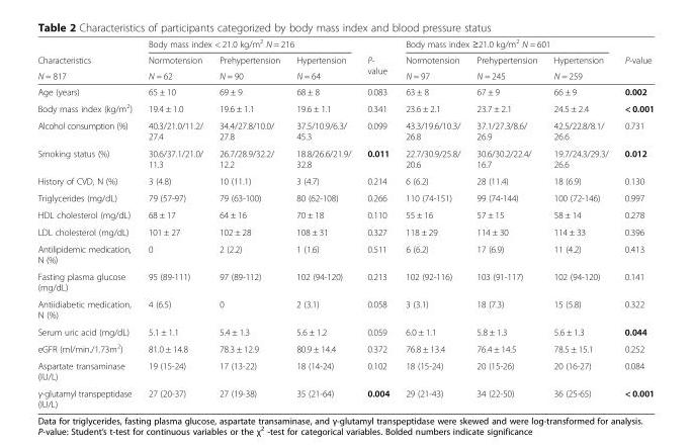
<table><thead><tr><td rowspan="3">Characteristics N = 817</td><td colspan="3">Body mass index &lt; 21.0 kg/m<sup>2</sup> N = 216</td><td rowspan="3">P- value</td><td colspan="3">Body mass index ≥21.0 kg/m<sup>2</sup> N = 601</td><td rowspan="3">P-value</td></tr><tr><td rowspan="2">Normotension N = 62</td><td rowspan="2">Prehypertension N = 90</td><td rowspan="2">Hypertension N = 64</td><td rowspan="2">Normotension N = 97</td><td rowspan="2">Prehypertension N = 245</td><td rowspan="2">Hypertension N = 259</td></tr><tr></tr></thead><tbody><tr><td>Age (years)</td><td>65 ± 10</td><td>69 ± 9</td><td>68 ± 8</td><td>0.083</td><td>63 ± 8</td><td>67 ± 9</td><td>66 ± 9</td><td>0.002</td></tr><tr><td>Body mass index (kg/m<sup>2</sup>)</td><td>19.4 ± 1.0</td><td>19.6 ± 1.1</td><td>19.6 ± 1.1</td><td>0.341</td><td>23.6 ± 2.1</td><td>23.7 ± 2.1</td><td>24.5 ± 2.4</td><td>&lt; 0.001</td></tr><tr><td>Alcohol consumption (%)</td><td>40.3/21.0/11.2/ 27.4</td><td>34.4/27.8/10.0/ 27.8</td><td>37.5/10.9/6.3/ 45.3</td><td>0.099</td><td>43.3/19.6/10.3/ 26.8</td><td>37.1/27.3/8.6/ 26.9</td><td>42.5/22.8/8.1/ 26.6</td><td>0.731</td></tr><tr><td>Smoking status (%)</td><td>30.6/37.1/21.0/ 11.3</td><td>26.7/28.9/32.2/ 12.2</td><td>18.8/26.6/21.9/ 32.8</td><td>0.011</td><td>22.7/30.9/25.8/ 20.6</td><td>30.6/30.2/22.4/ 16.7</td><td>19.7/24.3/29.3/ 26.6</td><td>0.012</td></tr><tr><td>History of CVD, N (%)</td><td>3 (4.8)</td><td>10 (11.1)</td><td>3 (4.7)</td><td>0.214</td><td>6 (6.2)</td><td>28 (11.4)</td><td>18 (6.9)</td><td>0.130</td></tr><tr><td>Triglycerides (mg/dL)</td><td>79 (57-97)</td><td>79 (63-100)</td><td>80 (62-108)</td><td>0.266</td><td>110 (74-151)</td><td>99 (74-144)</td><td>100 (72-146)</td><td>0.997</td></tr><tr><td>HDL cholesterol (mg/dL)</td><td>68 ± 17</td><td>64 ± 16</td><td>70 ± 18</td><td>0.110</td><td>55 ± 16</td><td>57 ± 15</td><td>58 ± 14</td><td>0.278</td></tr><tr><td>LDL cholesterol (mg/dL)</td><td>101 ± 27</td><td>102 ± 28</td><td>108 ± 31</td><td>0.327</td><td>118 ± 29</td><td>114 ± 30</td><td>114 ± 33</td><td>0.396</td></tr><tr><td>Antilipidemic medication, N (%)</td><td>0</td><td>2 (2.2)</td><td>1 (1.6)</td><td>0.511</td><td>6 (6.2)</td><td>17 (6.9)</td><td>11 (4.2)</td><td>0.413</td></tr><tr><td>Fasting plasma glucose (mg/dL)</td><td>95 (89-111)</td><td>97 (89-112)</td><td>102 (94-120)</td><td>0.213</td><td>102 (92-116)</td><td>103 (91-117)</td><td>102 (94-120)</td><td>0.141</td></tr><tr><td>Antiidiabetic medication, N (%)</td><td>4 (6.5)</td><td>0</td><td>2 (3.1)</td><td>0.058</td><td>3 (3.1)</td><td>18 (7.3)</td><td>15 (5.8)</td><td>0.322</td></tr><tr><td>Serum uric acid (mg/dL)</td><td>5.1 ± 1.1</td><td>5.4 ± 1.3</td><td>5.6 ± 1.2</td><td>0.059</td><td>6.0 ± 1.1</td><td>5.8 ± 1.3</td><td>5.6 ± 1.3</td><td>0.044</td></tr><tr><td>eGFR (ml/min./1.73m<sup>2</sup>)</td><td>81.0 ± 14.8</td><td>78.3 ± 12.9</td><td>80.9 ± 14.4</td><td>0.372</td><td>76.8 ± 13.4</td><td>76.4 ± 14.5</td><td>78.5 ± 15.1</td><td>0.252</td></tr><tr><td>Aspartate transaminase (IU/L)</td><td>19 (15-24)</td><td>17 (13-22)</td><td>18 (14-24)</td><td>0.102</td><td>18 (15-24)</td><td>20 (15-26)</td><td>20 (16-27)</td><td>0.084</td></tr><tr><td>γ-glutamyl transpeptidase (IU/L)</td><td>27 (20-37)</td><td>27 (19-38)</td><td>35 (21-64)</td><td>0.004</td><td>29 (21-43)</td><td>34 (22-50)</td><td>36 (25-65)</td><td>&lt; 0.001</td></tr></tbody></table>